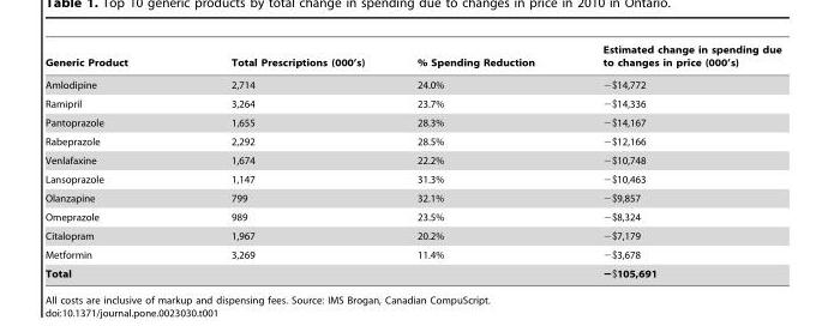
<table><thead><tr><td>Generic Product</td><td>Total Prescriptions (000’s)</td><td>% Spending Reduction</td><td>Estimated change in spending due to changes in price (000’s)</td></tr></thead><tbody><tr><td>Amlodipine</td><td>2,714</td><td>24.0%</td><td>−$14,772</td></tr><tr><td>Ramipril</td><td>3,264</td><td>23.7%</td><td>−$14,336</td></tr><tr><td>Pantoprazole</td><td>1,655</td><td>28.3%</td><td>−$14,167</td></tr><tr><td>Rabeprazole</td><td>2,292</td><td>28.5%</td><td>−$12,166</td></tr><tr><td>Venlafaxine</td><td>1,674</td><td>22.2%</td><td>−$10,748</td></tr><tr><td>Lansoprazole</td><td>1,147</td><td>31.3%</td><td>−$10,463</td></tr><tr><td>Olanzapine</td><td>799</td><td>32.1%</td><td>−$9,857</td></tr><tr><td>Omeprazole</td><td>989</td><td>23.5%</td><td>−$8,324</td></tr><tr><td>Citalopram</td><td>1,967</td><td>20.2%</td><td>−$7,179</td></tr><tr><td>Metformin</td><td>3,269</td><td>11.4%</td><td>−$3,678</td></tr><tr><td>Total</td><td></td><td></td><td>−$105,691</td></tr></tbody></table>